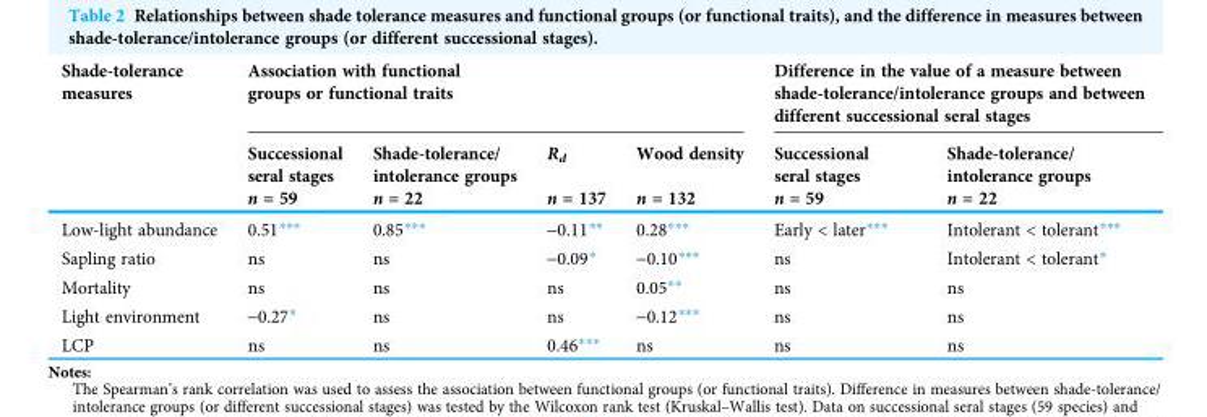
<table><thead><tr><td rowspan="3">Shade-tolerance measures</td><td colspan="4">Association with functional groups or functional traits</td><td colspan="2">Difference in the value of a measure between shade-tolerance/intolerance groups and between different successional seral stages</td></tr><tr><td rowspan="2">Successional seral stages n = 59</td><td rowspan="2">Shade-tolerance/ intolerance groups n = 22</td><td rowspan="2">R<sub>d</sub> n = 137</td><td rowspan="2">Wood density n = 132</td><td rowspan="2">Successional seral stages n = 59</td><td rowspan="2">Shade-tolerance/ intolerance groups n = 22</td></tr><tr></tr></thead><tbody><tr><td>Low-light abundance</td><td>0.51***</td><td>0.85***</td><td>-0.11**</td><td>0.28***</td><td>Early &lt; later***</td><td>Intolerant &lt; tolerant***</td></tr><tr><td>Sapling ratio</td><td>ns</td><td>ns</td><td>-0.09*</td><td>-0.10***</td><td>ns</td><td>Intolerant &lt; tolerant*</td></tr><tr><td>Mortality</td><td>ns</td><td>ns</td><td>ns</td><td>0.05**</td><td>ns</td><td>ns</td></tr><tr><td>Light environment</td><td>-0.27*</td><td>ns</td><td>ns</td><td>-0.12***</td><td>ns</td><td>ns</td></tr><tr><td>LCP</td><td>ns</td><td>ns</td><td>0.46***</td><td>ns</td><td>ns</td><td>ns</td></tr></tbody></table>